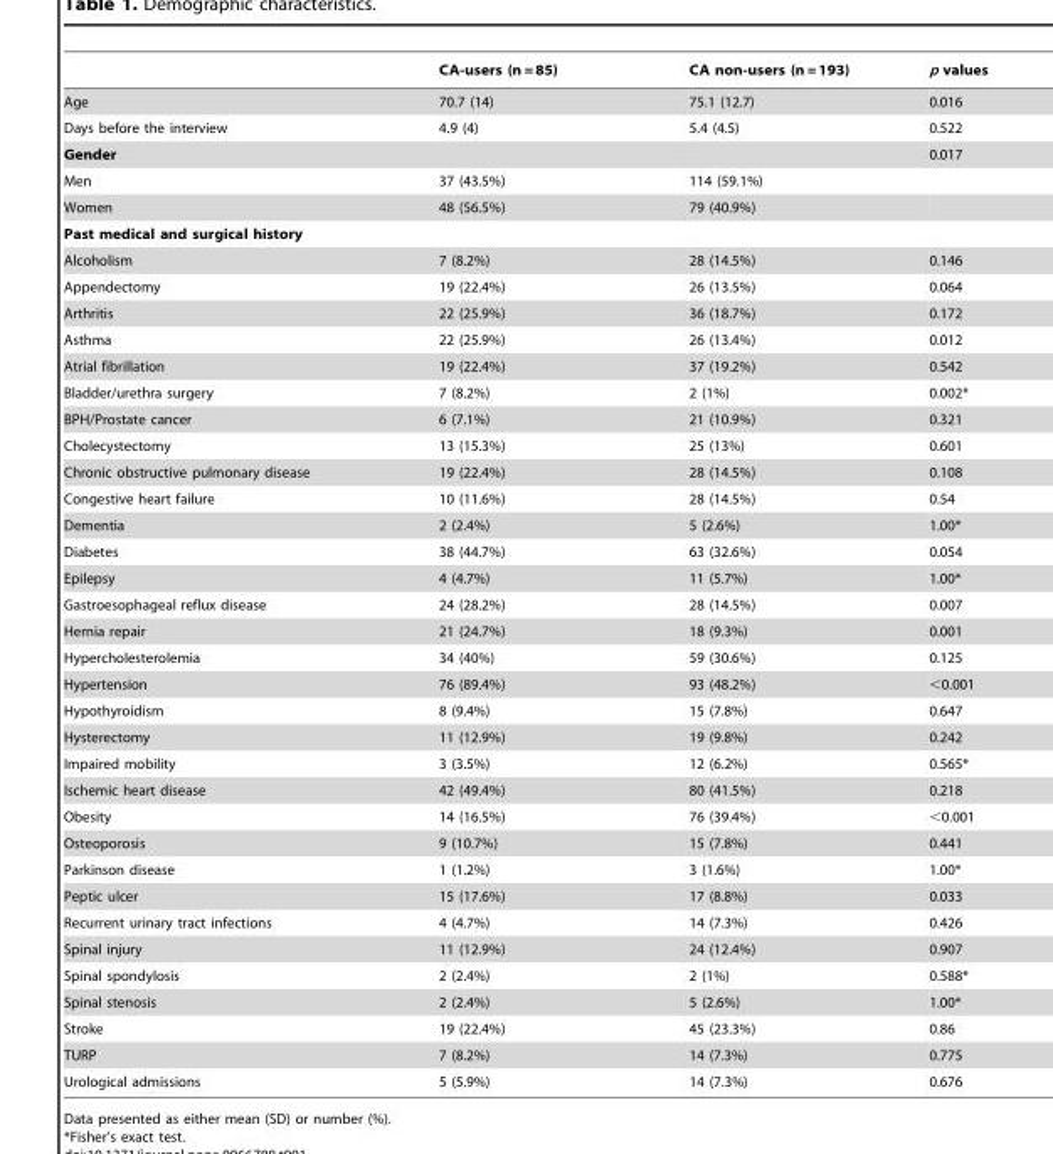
<table><thead><tr><td></td><td>CA-users (n = 85)</td><td>CA non-users (n = 193)</td><td>p values</td></tr></thead><tbody><tr><td>Age</td><td>70.7 (14)</td><td>75.1 (12.7)</td><td>0.016</td></tr><tr><td>Days before the interview</td><td>4.9 (4)</td><td>5.4 (4.5)</td><td>0.522</td></tr><tr><td>Gender</td><td></td><td></td><td>0.017</td></tr><tr><td>Men</td><td>37 (43.5%)</td><td>114 (59.1%)</td><td></td></tr><tr><td>Women</td><td>48 (56.5%)</td><td>79 (40.9%)</td><td></td></tr><tr><td colspan="4">Past medical and surgical history</td></tr><tr><td>Alcoholism</td><td>7 (8.2%)</td><td>28 (14.5%)</td><td>0.146</td></tr><tr><td>Appendectomy</td><td>19 (22.4%)</td><td>26 (13.5%)</td><td>0.064</td></tr><tr><td>Arthritis</td><td>22 (25.9%)</td><td>36 (18.7%)</td><td>0.172</td></tr><tr><td>Asthma</td><td>22 (25.9%)</td><td>26 (13.4%)</td><td>0.012</td></tr><tr><td>Atrial fibrillation</td><td>19 (22.4%)</td><td>37 (19.2%)</td><td>0.542</td></tr><tr><td>Bladder/urethra surgery</td><td>7 (8.2%)</td><td>2 (1%)</td><td>0.002*</td></tr><tr><td>BPH/Prostate cancer</td><td>6 (7.1%)</td><td>21 (10.9%)</td><td>0.321</td></tr><tr><td>Cholecystectomy</td><td>13 (15.3%)</td><td>25 (13%)</td><td>0.601</td></tr><tr><td>Chronic obstructive pulmonary disease</td><td>19 (22.4%)</td><td>28 (14.5%)</td><td>0.108</td></tr><tr><td>Congestive heart failure</td><td>10 (11.6%)</td><td>28 (14.5%)</td><td>0.54</td></tr><tr><td>Dementia</td><td>2 (2.4%)</td><td>5 (2.6%)</td><td>1.00*</td></tr><tr><td>Diabetes</td><td>38 (44.7%)</td><td>63 (32.6%)</td><td>0.054</td></tr><tr><td>Epilepsy</td><td>4 (4.7%)</td><td>11 (5.7%)</td><td>1.00*</td></tr><tr><td>Gastroesophageal reflux disease</td><td>24 (28.2%)</td><td>28 (14.5%)</td><td>0.007</td></tr><tr><td>Hernia repair</td><td>21 (24.7%)</td><td>18 (9.3%)</td><td>0.001</td></tr><tr><td>Hypercholesterolemia</td><td>34 (40%)</td><td>59 (30.6%)</td><td>0.125</td></tr><tr><td>Hypertension</td><td>76 (89.4%)</td><td>93 (48.2%)</td><td>&lt;0.001</td></tr><tr><td>Hypothyroidism</td><td>8 (9.4%)</td><td>15 (7.8%)</td><td>0.647</td></tr><tr><td>Hysterectomy</td><td>11 (12.9%)</td><td>19 (9.8%)</td><td>0.242</td></tr><tr><td>Impaired mobility</td><td>3 (3.5%)</td><td>12 (6.2%)</td><td>0.565*</td></tr><tr><td>Ischemic heart disease</td><td>42 (49.4%)</td><td>80 (41.5%)</td><td>0.218</td></tr><tr><td>Obesity</td><td>14 (16.5%)</td><td>76 (39.4%)</td><td>&lt;0.001</td></tr><tr><td>Osteoporosis</td><td>9 (10.7%)</td><td>15 (7.8%)</td><td>0.441</td></tr><tr><td>Parkinson disease</td><td>1 (1.2%)</td><td>3 (1.6%)</td><td>1.00*</td></tr><tr><td>Peptic ulcer</td><td>15 (17.6%)</td><td>17 (8.8%)</td><td>0.033</td></tr><tr><td>Recurrent urinary tract infections</td><td>4 (4.7%)</td><td>14 (7.3%)</td><td>0.426</td></tr><tr><td>Spinal injury</td><td>11 (12.9%)</td><td>24 (12.4%)</td><td>0.907</td></tr><tr><td>Spinal spondylosis</td><td>2 (2.4%)</td><td>2 (1%)</td><td>0.588*</td></tr><tr><td>Spinal stenosis</td><td>2 (2.4%)</td><td>5 (2.6%)</td><td>1.00*</td></tr><tr><td>Stroke</td><td>19 (22.4%)</td><td>45 (23.3%)</td><td>0.86</td></tr><tr><td>TURP</td><td>7 (8.2%)</td><td>14 (7.3%)</td><td>0.775</td></tr><tr><td>Urological admissions</td><td>5 (5.9%)</td><td>14 (7.3%)</td><td>0.676</td></tr></tbody></table>